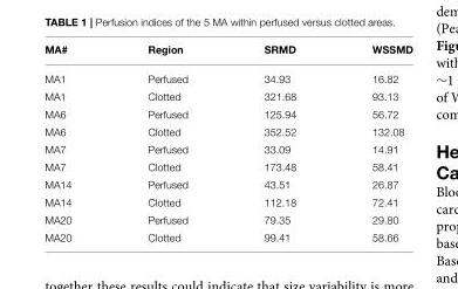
<table><thead><tr><td>MA#</td><td>Region</td><td>SRMD</td><td>WSSMD</td></tr></thead><tbody><tr><td>MA1</td><td>Perfused</td><td>34.93</td><td>16.82</td></tr><tr><td>MA1</td><td>Clotted</td><td>321.68</td><td>93.13</td></tr><tr><td>MA6</td><td>Perfused</td><td>125.94</td><td>56.72</td></tr><tr><td>MA6</td><td>Clotted</td><td>352.52</td><td>132.08</td></tr><tr><td>MA7</td><td>Perfused</td><td>33.09</td><td>14.91</td></tr><tr><td>MA7</td><td>Clotted</td><td>173.48</td><td>58.41</td></tr><tr><td>MA14</td><td>Perfused</td><td>43.51</td><td>26.87</td></tr><tr><td>MA14</td><td>Clotted</td><td>112.18</td><td>72.41</td></tr><tr><td>MA20</td><td>Perfused</td><td>79.35</td><td>29.80</td></tr><tr><td>MA20</td><td>Clotted</td><td>99.41</td><td>58.66</td></tr></tbody></table>